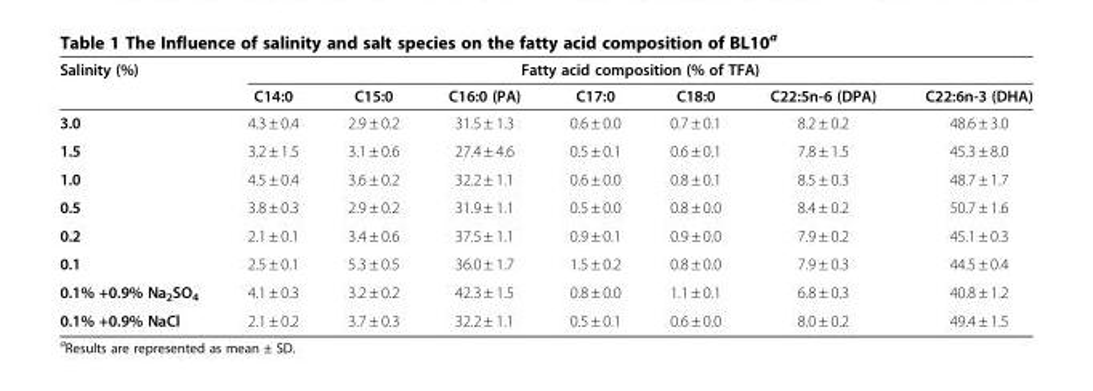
<table><thead><tr><td rowspan="2">Salinity (%)</td><td colspan="7">Fatty acid composition (% of TFA)</td></tr><tr><td>C14:0</td><td>C15:0</td><td>C16:0 (PA)</td><td>C17:0</td><td>C18:0</td><td>C22:5n-6 (DPA)</td><td>C22:6n-3 (DHA)</td></tr></thead><tbody><tr><td>3.0</td><td>4.3 ± 0.4</td><td>2.9 ± 0.2</td><td>31.5 ± 1.3</td><td>0.6 ± 0.0</td><td>0.7 ± 0.1</td><td>8.2 ± 0.2</td><td>48.6 ± 3.0</td></tr><tr><td>1.5</td><td>3.2 ± 1.5</td><td>3.1 ± 0.6</td><td>27.4 ± 4.6</td><td>0.5 ± 0.1</td><td>0.6 ± 0.1</td><td>7.8 ± 1.5</td><td>45.3 ± 8.0</td></tr><tr><td>1.0</td><td>4.5 ± 0.4</td><td>3.6 ± 0.2</td><td>32.2 ± 1.1</td><td>0.6 ± 0.0</td><td>0.8 ± 0.1</td><td>8.5 ± 0.3</td><td>48.7 ± 1.7</td></tr><tr><td>0.5</td><td>3.8 ± 0.3</td><td>2.9 ± 0.2</td><td>31.9 ± 1.1</td><td>0.5 ± 0.0</td><td>0.8 ± 0.0</td><td>8.4 ± 0.2</td><td>50.7 ± 1.6</td></tr><tr><td>0.2</td><td>2.1 ± 0.1</td><td>3.4 ± 0.6</td><td>37.5 ± 1.1</td><td>0.9 ± 0.1</td><td>0.9 ± 0.0</td><td>7.9 ± 0.2</td><td>45.1 ± 0.3</td></tr><tr><td>0.1</td><td>2.5 ± 0.1</td><td>5.3 ± 0.5</td><td>36.0 ± 1.7</td><td>1.5 ± 0.2</td><td>0.8 ± 0.0</td><td>7.9 ± 0.3</td><td>44.5 ± 0.4</td></tr><tr><td>0.1% +0.9% Na<sub>2</sub>SO<sub>4</sub></td><td>4.1 ± 0.3</td><td>3.2 ± 0.2</td><td>42.3 ± 1.5</td><td>0.8 ± 0.0</td><td>1.1 ± 0.1</td><td>6.8 ± 0.3</td><td>40.8 ± 1.2</td></tr><tr><td>0.1% +0.9% NaCl</td><td>2.1 ± 0.2</td><td>3.7 ± 0.3</td><td>32.2 ± 1.1</td><td>0.5 ± 0.1</td><td>0.6 ± 0.0</td><td>8.0 ± 0.2</td><td>49.4 ± 1.5</td></tr></tbody></table>